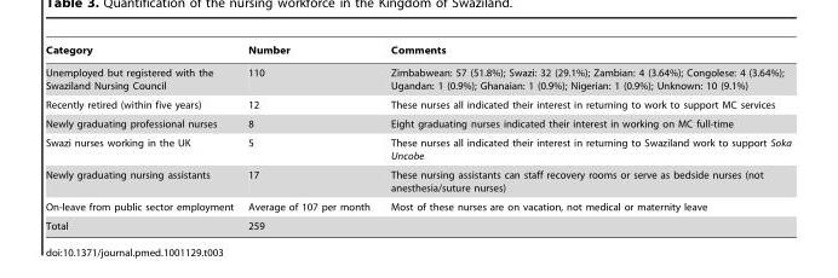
<table><thead><tr><td>Category</td><td>Number</td><td>Comments</td></tr></thead><tbody><tr><td>Unemployed but registered with the Swaziland Nursing Council</td><td>110</td><td>Zimbabwean: 57 (51.8%); Swazi: 32 (29.1%); Zambian: 4 (3.64%); Congolese: 4 (3.64%); Ugandan: 1 (0.9%); Ghanaian: 1 (0.9%); Nigerian: 1 (0.9%); Unknown: 10 (9.1%)</td></tr><tr><td>Recently retired (within five years)</td><td>12</td><td>These nurses all indicated their interest in returning to work to support MC services</td></tr><tr><td>Newly graduating professional nurses</td><td>8</td><td>Eight graduating nurses indicated their interest in working on MC full-time</td></tr><tr><td>Swazi nurses working in the UK</td><td>5</td><td>These nurses all indicated their interest in returning to Swaziland work to support Soka Uncobe</td></tr><tr><td>Newly graduating nursing assistants</td><td>17</td><td>These nursing assistants can staff recovery rooms or serve as bedside nurses (not anesthesia/suture nurses)</td></tr><tr><td>On-leave from public sector employment</td><td>Average of 107 per month</td><td>Most of these nurses are on vacation, not medical or maternity leave</td></tr><tr><td>Total</td><td>259</td><td></td></tr></tbody></table>